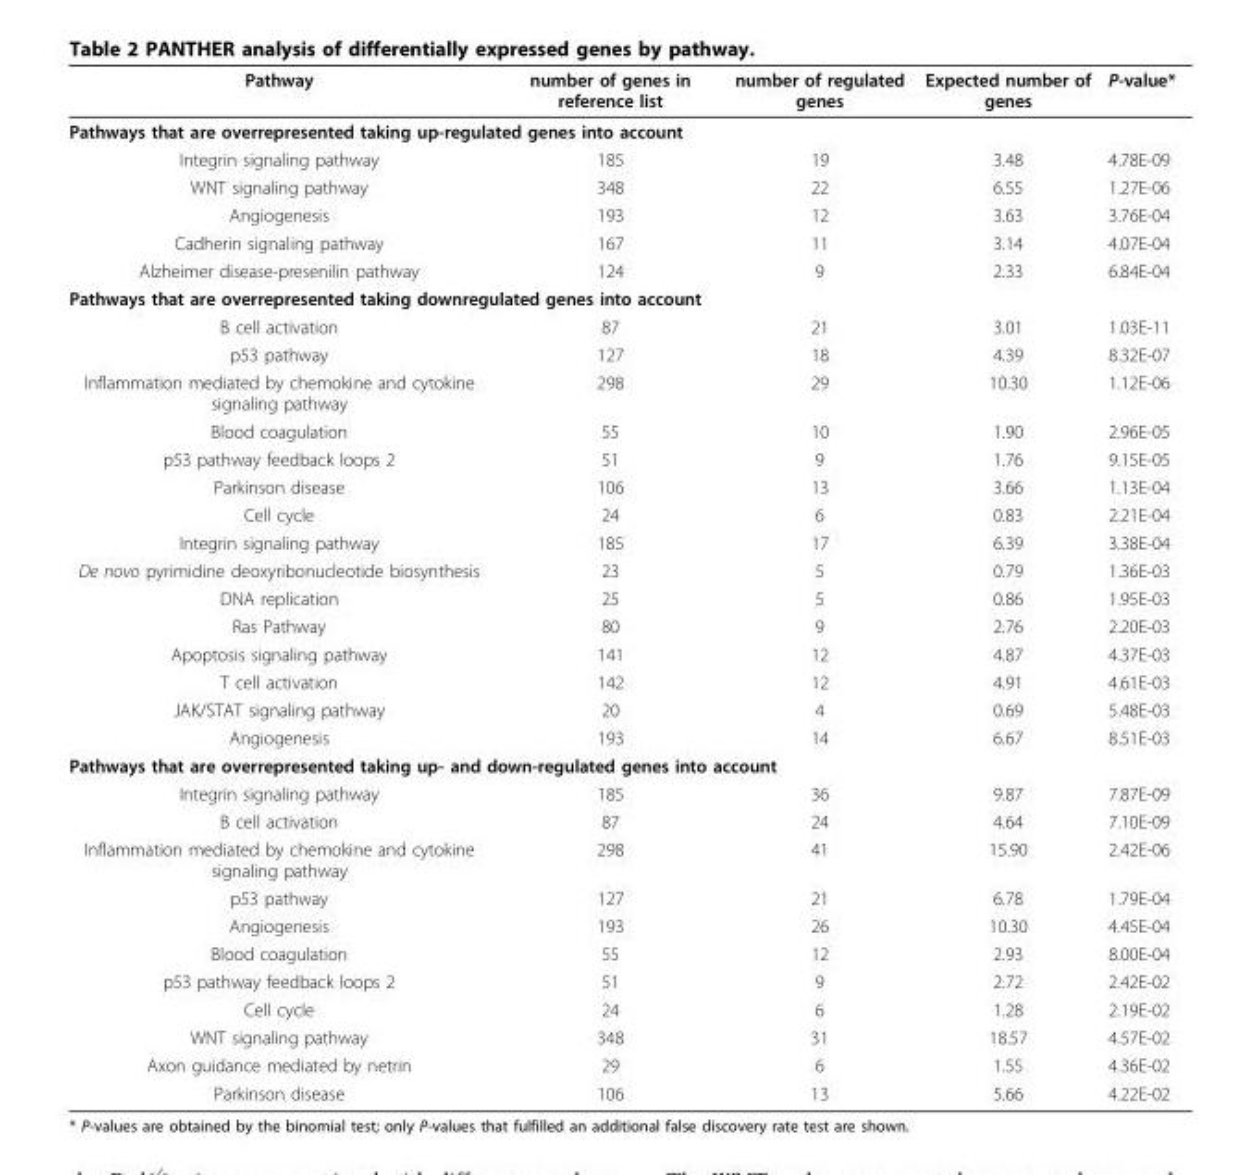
<table><thead><tr><td>Pathway</td><td>number of genes in reference list</td><td>number of regulated genes</td><td>Expected number of genes</td><td>P-value*</td></tr></thead><tbody><tr><td colspan="5">Pathways that are overrepresented taking up-regulated genes into account</td></tr><tr><td>Integrin signaling pathway</td><td>185</td><td>19</td><td>3.48</td><td>4.78E-09</td></tr><tr><td>WNT signaling pathway</td><td>348</td><td>22</td><td>6.55</td><td>1.27E-06</td></tr><tr><td>Angiogenesis</td><td>193</td><td>12</td><td>3.63</td><td>3.76E-04</td></tr><tr><td>Cadherin signaling pathway</td><td>167</td><td>11</td><td>3.14</td><td>4.07E-04</td></tr><tr><td>Alzheimer disease-presenilin pathway</td><td>124</td><td>9</td><td>2.33</td><td>6.84E-04</td></tr><tr><td colspan="5">Pathways that are overrepresented taking downregulated genes into account</td></tr><tr><td>B cell activation</td><td>87</td><td>21</td><td>3.01</td><td>1.03E-11</td></tr><tr><td>p53 pathway</td><td>127</td><td>18</td><td>4.39</td><td>8.32E-07</td></tr><tr><td>Inflammation mediated by chemokine and cytokine signaling pathway</td><td>298</td><td>29</td><td>10.30</td><td>1.12E-06</td></tr><tr><td>Blood coagulation</td><td>55</td><td>10</td><td>1.90</td><td>2.96E-05</td></tr><tr><td>p53 pathway feedback loops 2</td><td>51</td><td>9</td><td>1.76</td><td>9.15E-05</td></tr><tr><td>Parkinson disease</td><td>106</td><td>13</td><td>3.66</td><td>1.13E-04</td></tr><tr><td>Cell cycle</td><td>24</td><td>6</td><td>0.83</td><td>2.21E-04</td></tr><tr><td>Integrin signaling pathway</td><td>185</td><td>17</td><td>6.39</td><td>3.38E-04</td></tr><tr><td>De novo pyrimidine deoxyribonucleotide biosynthesis</td><td>23</td><td>5</td><td>0.79</td><td>1.36E-03</td></tr><tr><td>DNA replication</td><td>25</td><td>5</td><td>0.86</td><td>1.95E-03</td></tr><tr><td>Ras Pathway</td><td>80</td><td>9</td><td>2.76</td><td>2.20E-03</td></tr><tr><td>Apoptosis signaling pathway</td><td>141</td><td>12</td><td>4.87</td><td>4.37E-03</td></tr><tr><td>T cell activation</td><td>142</td><td>12</td><td>4.91</td><td>4.61E-03</td></tr><tr><td>JAK/STAT signaling pathway</td><td>20</td><td>4</td><td>0.69</td><td>5.48E-03</td></tr><tr><td>Angiogenesis</td><td>193</td><td>14</td><td>6.67</td><td>8.51E-03</td></tr><tr><td colspan="5">Pathways that are overrepresented taking up- and down-regulated genes into account</td></tr><tr><td>Integrin signaling pathway</td><td>185</td><td>36</td><td>9.87</td><td>7.87E-09</td></tr><tr><td>B cell activation</td><td>87</td><td>24</td><td>4.64</td><td>7.10E-09</td></tr><tr><td>Inflammation mediated by chemokine and cytokine signaling pathway</td><td>298</td><td>41</td><td>15.90</td><td>2.42E-06</td></tr><tr><td>p53 pathway</td><td>127</td><td>21</td><td>6.78</td><td>1.79E-04</td></tr><tr><td>Angiogenesis</td><td>193</td><td>26</td><td>10.30</td><td>4.45E-04</td></tr><tr><td>Blood coagulation</td><td>55</td><td>12</td><td>2.93</td><td>8.00E-04</td></tr><tr><td>p53 pathway feedback loops 2</td><td>51</td><td>9</td><td>2.72</td><td>2.42E-02</td></tr><tr><td>Cell cycle</td><td>24</td><td>6</td><td>1.28</td><td>2.19E-02</td></tr><tr><td>WNT signaling pathway</td><td>348</td><td>31</td><td>18.57</td><td>4.57E-02</td></tr><tr><td>Axon guidance mediated by netrin</td><td>29</td><td>6</td><td>1.55</td><td>4.36E-02</td></tr><tr><td>Parkinson disease</td><td>106</td><td>13</td><td>5.66</td><td>4.22E-02</td></tr></tbody></table>